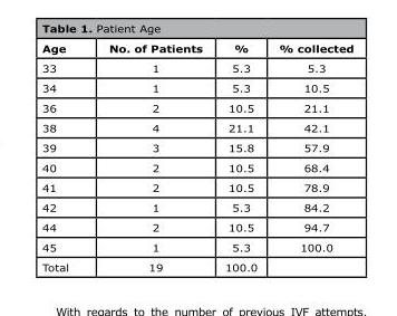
<table><thead><tr><td>Age</td><td>No. of Patients</td><td>%</td><td>% collected</td></tr></thead><tbody><tr><td>33</td><td>1</td><td>5.3</td><td>5.3</td></tr><tr><td>34</td><td>1</td><td>5.3</td><td>10.5</td></tr><tr><td>36</td><td>2</td><td>10.5</td><td>21.1</td></tr><tr><td>38</td><td>4</td><td>21.1</td><td>42.1</td></tr><tr><td>39</td><td>3</td><td>15.8</td><td>57.9</td></tr><tr><td>40</td><td>2</td><td>10.5</td><td>68.4</td></tr><tr><td>41</td><td>2</td><td>10.5</td><td>78.9</td></tr><tr><td>42</td><td>1</td><td>5.3</td><td>84.2</td></tr><tr><td>44</td><td>2</td><td>10.5</td><td>94.7</td></tr><tr><td>45</td><td>1</td><td>5.3</td><td>100.0</td></tr><tr><td>Total</td><td>19</td><td>100.0</td><td></td></tr></tbody></table>